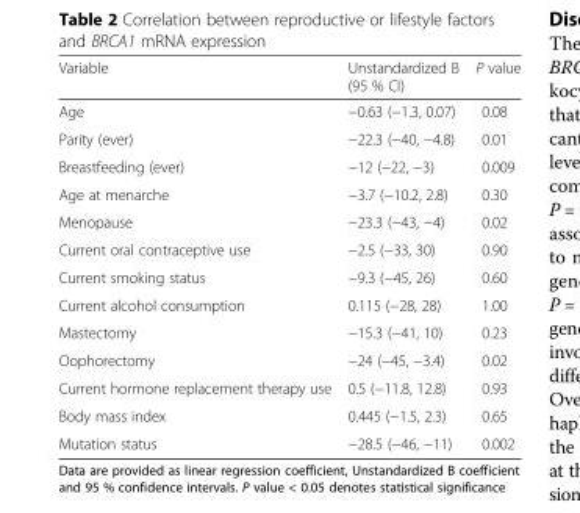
<table><thead><tr><td>Variable</td><td>Unstandardized B (95 % CI)</td><td>P value</td></tr></thead><tbody><tr><td>Age</td><td>−0.63 (−1.3, 0.07)</td><td>0.08</td></tr><tr><td>Parity (ever)</td><td>−22.3 (−40, −4.8)</td><td>0.01</td></tr><tr><td>Breastfeeding (ever)</td><td>−12 (−22, −3)</td><td>0.009</td></tr><tr><td>Age at menarche</td><td>−3.7 (−10.2, 2.8)</td><td>0.30</td></tr><tr><td>Menopause</td><td>−23.3 (−43, −4)</td><td>0.02</td></tr><tr><td>Current oral contraceptive use</td><td>−2.5 (−33, 30)</td><td>0.90</td></tr><tr><td>Current smoking status</td><td>−9.3 (−45, 26)</td><td>0.60</td></tr><tr><td>Current alcohol consumption</td><td>0.115 (−28, 28)</td><td>1.00</td></tr><tr><td>Mastectomy</td><td>−15.3 (−41, 10)</td><td>0.23</td></tr><tr><td>Oophorectomy</td><td>−24 (−45, −3.4)</td><td>0.02</td></tr><tr><td>Current hormone replacement therapy use</td><td>0.5 (−11.8, 12.8)</td><td>0.93</td></tr><tr><td>Body mass index</td><td>0.445 (−1.5, 2.3)</td><td>0.65</td></tr><tr><td>Mutation status</td><td>−28.5 (−46, −11)</td><td>0.002</td></tr></tbody></table>